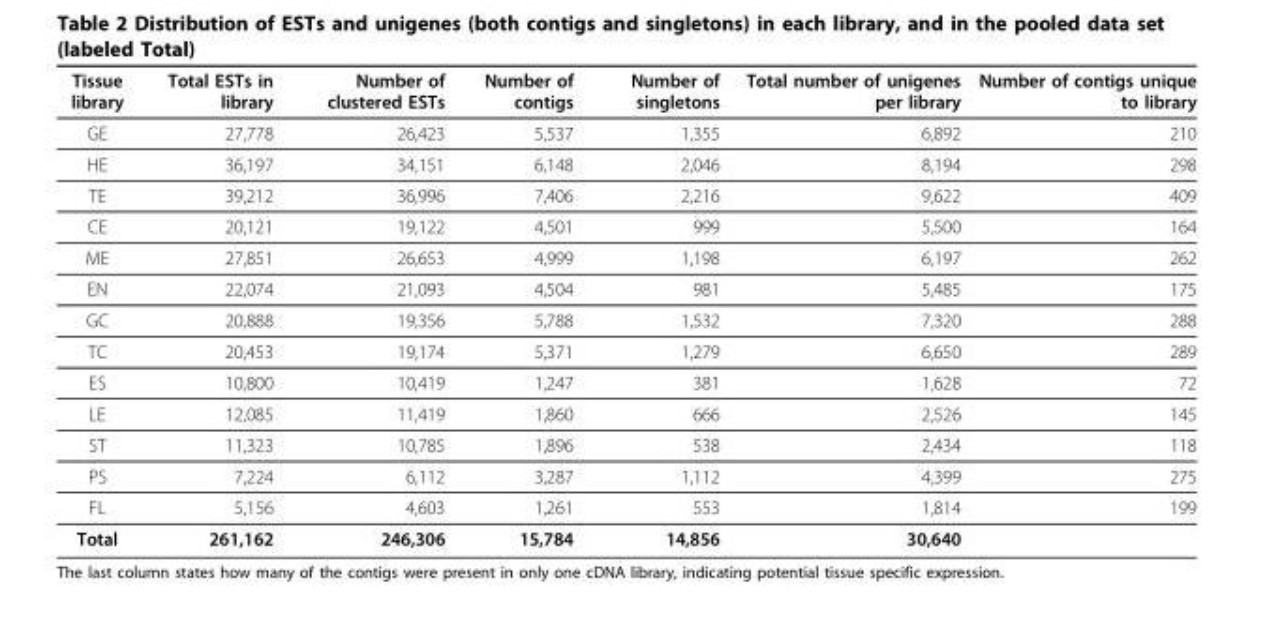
<table><thead><tr><td>Tissue library</td><td>Total ESTs in library</td><td>Number of clustered ESTs</td><td>Number of contigs</td><td>Number of singletons</td><td>Total number of unigenes per library</td><td>Number of contigs unique to library</td></tr></thead><tbody><tr><td>GE</td><td>27,778</td><td>26,423</td><td>5,537</td><td>1,355</td><td>6,892</td><td>210</td></tr><tr><td>HE</td><td>36,197</td><td>34,151</td><td>6,148</td><td>2,046</td><td>8,194</td><td>298</td></tr><tr><td>TE</td><td>39,212</td><td>36,996</td><td>7,406</td><td>2,216</td><td>9,622</td><td>409</td></tr><tr><td>CE</td><td>20,121</td><td>19,122</td><td>4,501</td><td>999</td><td>5,500</td><td>164</td></tr><tr><td>ME</td><td>27,851</td><td>26,653</td><td>4,999</td><td>1,198</td><td>6,197</td><td>262</td></tr><tr><td>EN</td><td>22,074</td><td>21,093</td><td>4,504</td><td>981</td><td>5,485</td><td>175</td></tr><tr><td>GC</td><td>20,888</td><td>19,356</td><td>5,788</td><td>1,532</td><td>7,320</td><td>288</td></tr><tr><td>TC</td><td>20,453</td><td>19,174</td><td>5,371</td><td>1,279</td><td>6,650</td><td>289</td></tr><tr><td>ES</td><td>10,800</td><td>10,419</td><td>1,247</td><td>381</td><td>1,628</td><td>72</td></tr><tr><td>LE</td><td>12,085</td><td>11,419</td><td>1,860</td><td>666</td><td>2,526</td><td>145</td></tr><tr><td>ST</td><td>11,323</td><td>10,785</td><td>1,896</td><td>538</td><td>2,434</td><td>118</td></tr><tr><td>PS</td><td>7,224</td><td>6,112</td><td>3,287</td><td>1,112</td><td>4,399</td><td>275</td></tr><tr><td>FL</td><td>5,156</td><td>4,603</td><td>1,261</td><td>553</td><td>1,814</td><td>199</td></tr><tr><td>Total</td><td>261,162</td><td>246,306</td><td>15,784</td><td>14,856</td><td>30,640</td><td></td></tr></tbody></table>